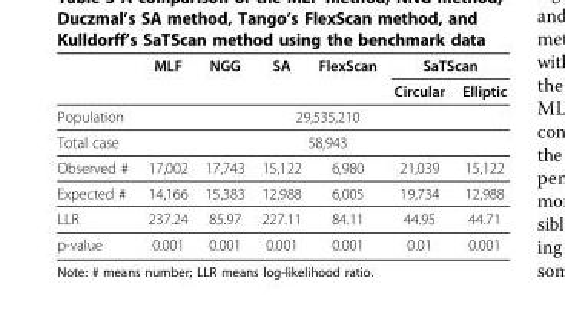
<table><thead><tr><td rowspan="2"></td><td rowspan="2">MLF</td><td rowspan="2">NGG</td><td rowspan="2">SA</td><td rowspan="2">FlexScan</td><td colspan="2">SaTScan</td></tr><tr><td>Circular</td><td>Elliptic</td></tr></thead><tbody><tr><td>Population</td><td colspan="6">29,535,210</td></tr><tr><td>Total case</td><td colspan="6">58,943</td></tr><tr><td>Observed #</td><td>17,002</td><td>17,743</td><td>15,122</td><td>6,980</td><td>21,039</td><td>15,122</td></tr><tr><td>Expected #</td><td>14,166</td><td>15,383</td><td>12,988</td><td>6,005</td><td>19,734</td><td>12,988</td></tr><tr><td>LLR</td><td>237.24</td><td>85.97</td><td>227.11</td><td>84.11</td><td>44.95</td><td>44.71</td></tr><tr><td>p-value</td><td>0.001</td><td>0.001</td><td>0.001</td><td>0.001</td><td>0.01</td><td>0.001</td></tr></tbody></table>